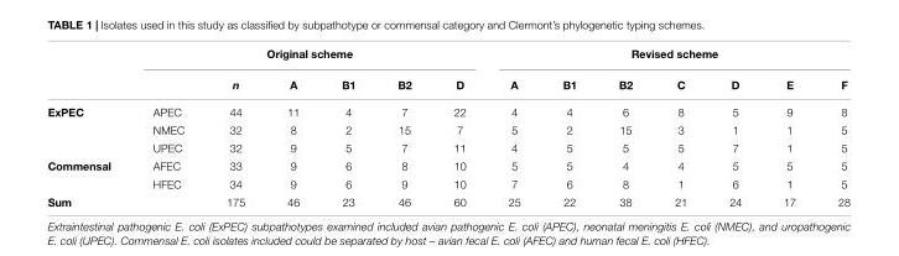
<table><thead><tr><td rowspan="2"></td><td colspan="6">Original scheme</td><td colspan="7">Revised scheme</td></tr><tr><td></td><td>n</td><td>A</td><td>B1</td><td>B2</td><td>D</td><td>A</td><td>B1</td><td>B2</td><td>C</td><td>D</td><td>E</td><td>F</td></tr></thead><tbody><tr><td rowspan="3">ExPEC</td><td>APEC</td><td>44</td><td>11</td><td>4</td><td>7</td><td>22</td><td>4</td><td>4</td><td>6</td><td>8</td><td>5</td><td>9</td><td>8</td></tr><tr><td>NMEC</td><td>32</td><td>8</td><td>2</td><td>15</td><td>7</td><td>5</td><td>2</td><td>15</td><td>3</td><td>1</td><td>1</td><td>5</td></tr><tr><td>UPEC</td><td>32</td><td>9</td><td>5</td><td>7</td><td>11</td><td>4</td><td>5</td><td>5</td><td>5</td><td>7</td><td>1</td><td>5</td></tr><tr><td rowspan="2">Commensal</td><td>AFEC</td><td>33</td><td>9</td><td>6</td><td>8</td><td>10</td><td>5</td><td>5</td><td>4</td><td>4</td><td>5</td><td>5</td><td>5</td></tr><tr><td>HFEC</td><td>34</td><td>9</td><td>6</td><td>9</td><td>10</td><td>7</td><td>6</td><td>8</td><td>1</td><td>6</td><td>1</td><td>5</td></tr><tr><td>Sum</td><td></td><td>175</td><td>46</td><td>23</td><td>46</td><td>60</td><td>25</td><td>22</td><td>38</td><td>21</td><td>24</td><td>17</td><td>28</td></tr></tbody></table>